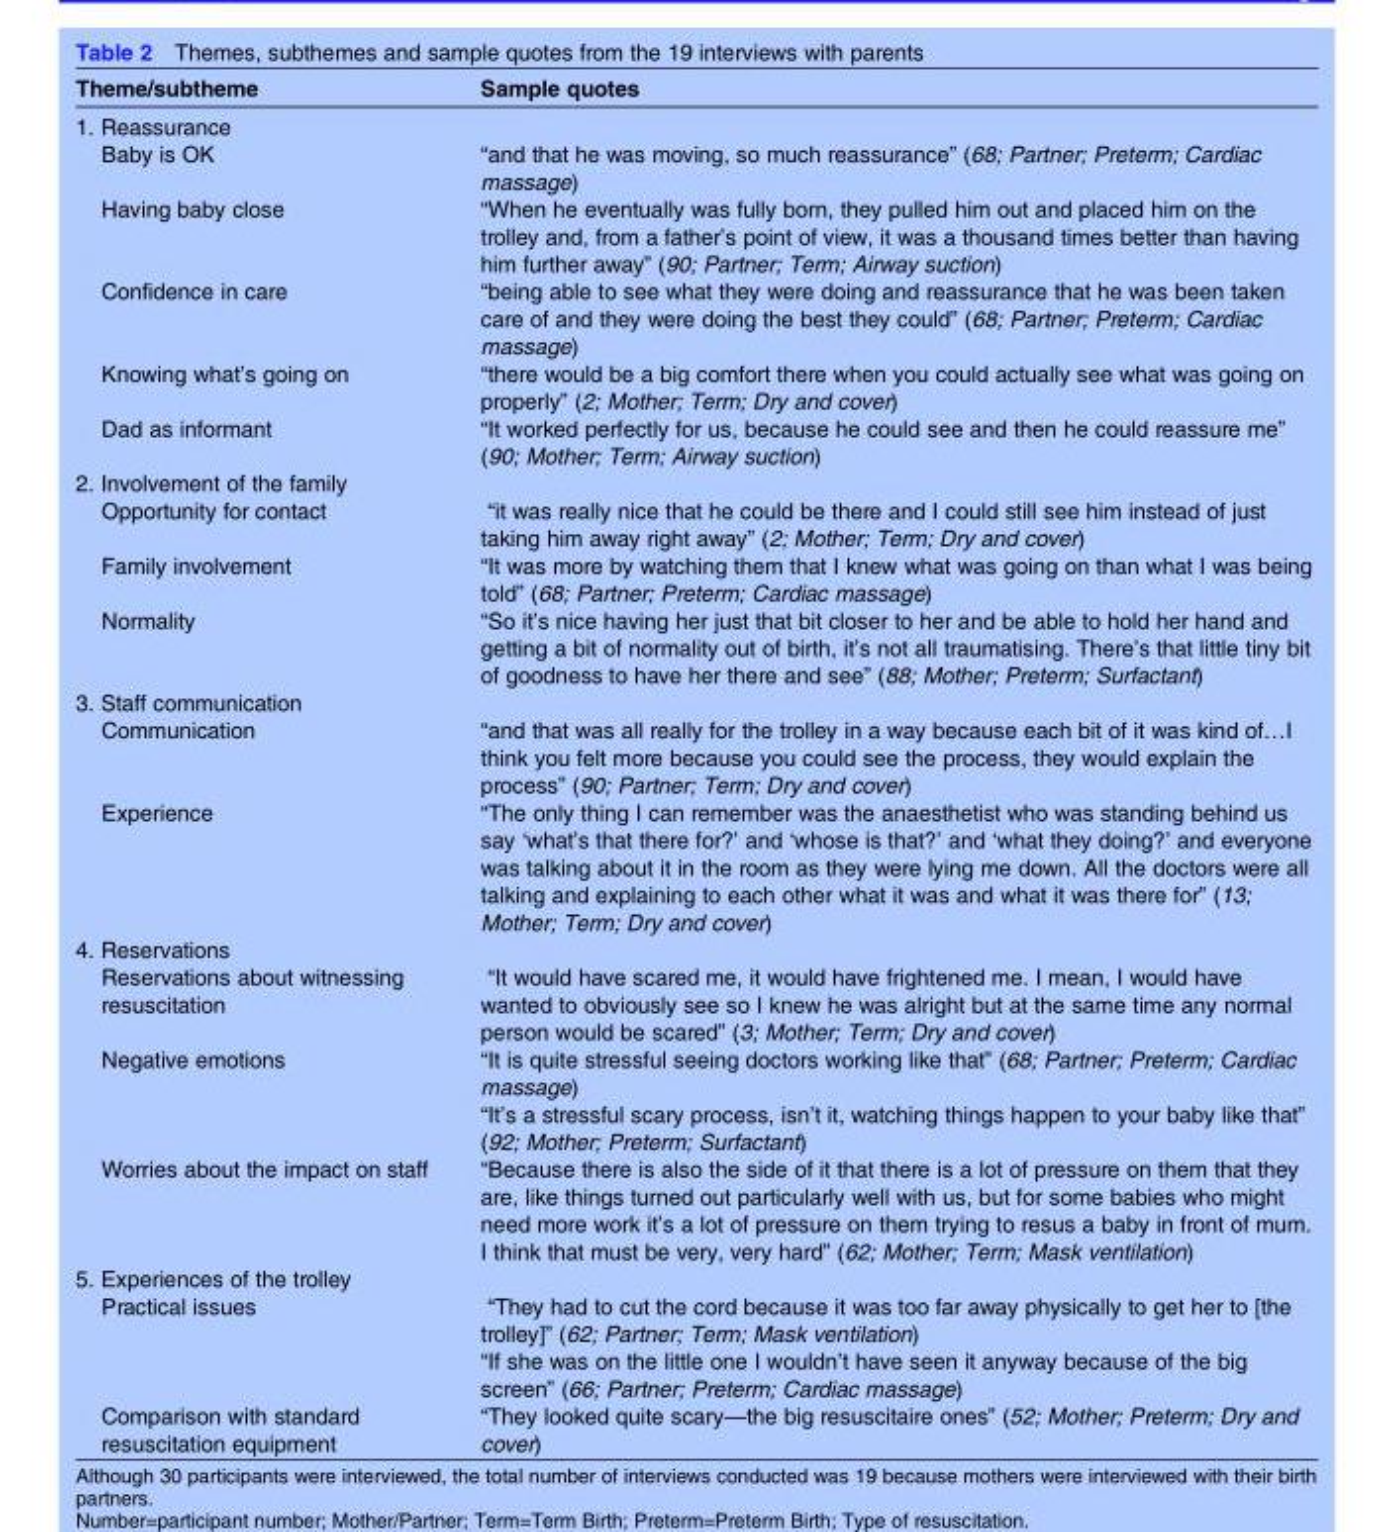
<table><thead><tr><td>Theme/subtheme</td><td>Sample quotes</td></tr></thead><tbody><tr><td colspan="2">1. Reassurance</td></tr><tr><td>Baby is OK</td><td>“and that he was moving, so much reassurance” (68; Partner; Preterm; Cardiac massage)</td></tr><tr><td>Having baby close</td><td>“When he eventually was fully born, they pulled him out and placed him on the trolley and, from a father’s point of view, it was a thousand times better than having him further away” (90; Partner; Term; Airway suction)</td></tr><tr><td>Confidence in care</td><td>“being able to see what they were doing and reassurance that he was been taken care of and they were doing the best they could” (68; Partner; Preterm; Cardiac massage)</td></tr><tr><td>Knowing what’s going on</td><td>“there would be a big comfort there when you could actually see what was going on properly” (2; Mother; Term; Dry and cover)</td></tr><tr><td>Dad as informant</td><td>“It worked perfectly for us, because he could see and then he could reassure me” (90; Mother; Term; Airway suction)</td></tr><tr><td colspan="2">2. Involvement of the family</td></tr><tr><td>Opportunity for contact</td><td>“it was really nice that he could be there and I could still see him instead of just taking him away right away” (2; Mother; Term; Dry and cover)</td></tr><tr><td>Family involvement</td><td>“It was more by watching them that I knew what was going on than what I was being told” (68; Partner; Preterm; Cardiac massage)</td></tr><tr><td>Normality</td><td>“So it’s nice having her just that bit closer to her and be able to hold her hand and getting a bit of normality out of birth, it’s not all traumatising. There’s that little tiny bit of goodness to have her there and see” (88; Mother; Preterm; Surfactant)</td></tr><tr><td colspan="2">3. Staff communication</td></tr><tr><td>Communication</td><td>“and that was all really for the trolley in a way because each bit of it was kind of…I think you felt more because you could see the process, they would explain the process” (90; Partner; Term; Dry and cover)</td></tr><tr><td>Experience</td><td>“The only thing I can remember was the anaesthetist who was standing behind us say ‘what’s that there for?’ and ‘whose is that?’ and ‘what they doing?’ and everyone was talking about it in the room as they were lying me down. All the doctors were all talking and explaining to each other what it was and what it was there for” (13; Mother; Term; Dry and cover)</td></tr><tr><td colspan="2">4. Reservations</td></tr><tr><td>Reservations about witnessing resuscitation</td><td>“It would have scared me, it would have frightened me. I mean, I would have wanted to obviously see so I knew he was alright but at the same time any normal person would be scared” (3; Mother; Term; Dry and cover)</td></tr><tr><td>Negative emotions</td><td>“It is quite stressful seeing doctors working like that” (68; Partner; Preterm; Cardiac massage) “It’s a stressful scary process, isn’t it, watching things happen to your baby like that” (92; Mother; Preterm; Surfactant)</td></tr><tr><td>Worries about the impact on staff</td><td>“Because there is also the side of it that there is a lot of pressure on them that they are, like things turned out particularly well with us, but for some babies who might need more work it’s a lot of pressure on them trying to resus a baby in front of mum. I think that must be very, very hard” (62; Mother; Term; Mask ventilation)</td></tr><tr><td colspan="2">5. Experiences of the trolley</td></tr><tr><td>Practical issues</td><td>“They had to cut the cord because it was too far away physically to get her to [the trolley]” (62; Partner; Term; Mask ventilation) “If she was on the little one I wouldn’t have seen it anyway because of the big screen” (66; Partner; Preterm; Cardiac massage)</td></tr><tr><td>Comparison with standard resuscitation equipment</td><td>“They looked quite scary—the big resuscitaire ones” (52; Mother; Preterm; Dry and cover)</td></tr></tbody></table>